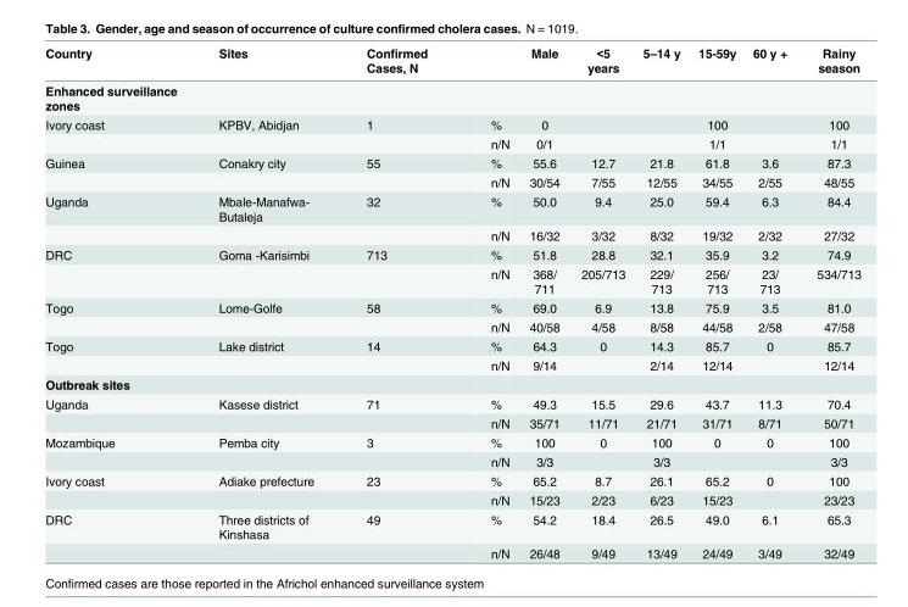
<table><thead><tr><td>Country</td><td>Sites</td><td>Confirmed Cases, N</td><td></td><td>Male</td><td>&lt;5 years</td><td>5–14 y</td><td>15-59y</td><td>60 y +</td><td>Rainy season</td></tr></thead><tbody><tr><td colspan="10">Enhanced surveillance zones</td></tr><tr><td rowspan="2">Ivory coast</td><td>KPBV, Abidjan</td><td>1</td><td>%</td><td>0</td><td></td><td></td><td>100</td><td></td><td>100</td></tr><tr><td></td><td></td><td>n/N</td><td>0/1</td><td></td><td></td><td>1/1</td><td></td><td>1/1</td></tr><tr><td rowspan="2">Guinea</td><td>Conakry city</td><td>55</td><td>%</td><td>55.6</td><td>12.7</td><td>21.8</td><td>61.8</td><td>3.6</td><td>87.3</td></tr><tr><td></td><td></td><td>n/N</td><td>30/54</td><td>7/55</td><td>12/55</td><td>34/55</td><td>2/55</td><td>48/55</td></tr><tr><td rowspan="2">Uganda</td><td>Mbale-Manafwa- Butaleja</td><td>32</td><td>%</td><td>50.0</td><td>9.4</td><td>25.0</td><td>59.4</td><td>6.3</td><td>84.4</td></tr><tr><td></td><td></td><td>n/N</td><td>16/32</td><td>3/32</td><td>8/32</td><td>19/32</td><td>2/32</td><td>27/32</td></tr><tr><td rowspan="2">DRC</td><td>Goma -Karisimbi</td><td>713</td><td>%</td><td>51.8</td><td>28.8</td><td>32.1</td><td>35.9</td><td>3.2</td><td>74.9</td></tr><tr><td></td><td></td><td>n/N</td><td>368/ 711</td><td>205/713</td><td>229/ 713</td><td>256/ 713</td><td>23/ 713</td><td>534/713</td></tr><tr><td rowspan="2">Togo</td><td>Lome-Golfe</td><td>58</td><td>%</td><td>69.0</td><td>6.9</td><td>13.8</td><td>75.9</td><td>3.5</td><td>81.0</td></tr><tr><td></td><td></td><td>n/N</td><td>40/58</td><td>4/58</td><td>8/58</td><td>44/58</td><td>2/58</td><td>47/58</td></tr><tr><td rowspan="2">Togo</td><td>Lake district</td><td>14</td><td>%</td><td>64.3</td><td>0</td><td>14.3</td><td>85.7</td><td>0</td><td>85.7</td></tr><tr><td></td><td></td><td>n/N</td><td>9/14</td><td></td><td>2/14</td><td>12/14</td><td></td><td>12/14</td></tr><tr><td colspan="10">Outbreak sites</td></tr><tr><td rowspan="2">Uganda</td><td>Kasese district</td><td>71</td><td>%</td><td>49.3</td><td>15.5</td><td>29.6</td><td>43.7</td><td>11.3</td><td>70.4</td></tr><tr><td></td><td></td><td>n/N</td><td>35/71</td><td>11/71</td><td>21/71</td><td>31/71</td><td>8/71</td><td>50/71</td></tr><tr><td rowspan="2">Mozambique</td><td>Pemba city</td><td>3</td><td>%</td><td>100</td><td>0</td><td>100</td><td>0</td><td>0</td><td>100</td></tr><tr><td></td><td></td><td>n/N</td><td>3/3</td><td></td><td>3/3</td><td></td><td></td><td>3/3</td></tr><tr><td rowspan="2">Ivory coast</td><td>Adiake prefecture</td><td>23</td><td>%</td><td>65.2</td><td>8.7</td><td>26.1</td><td>65.2</td><td>0</td><td>100</td></tr><tr><td></td><td></td><td>n/N</td><td>15/23</td><td>2/23</td><td>6/23</td><td>15/23</td><td></td><td>23/23</td></tr><tr><td rowspan="2">DRC</td><td>Three districts of Kinshasa</td><td>49</td><td>%</td><td>54.2</td><td>18.4</td><td>26.5</td><td>49.0</td><td>6.1</td><td>65.3</td></tr><tr><td></td><td></td><td>n/N</td><td>26/48</td><td>9/49</td><td>13/49</td><td>24/49</td><td>3/49</td><td>32/49</td></tr></tbody></table>